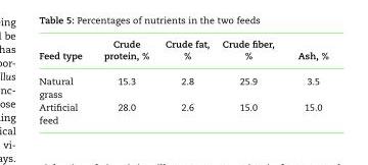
<table><thead><tr><td>Feed type</td><td>Crude protein, %</td><td>Crude fat, %</td><td>Crude fiber, %</td><td>Ash, %</td></tr></thead><tbody><tr><td>Natural grass</td><td>15.3</td><td>2.8</td><td>25.9</td><td>3.5</td></tr><tr><td>Artificial feed</td><td>28.0</td><td>2.6</td><td>15.0</td><td>15.0</td></tr></tbody></table>